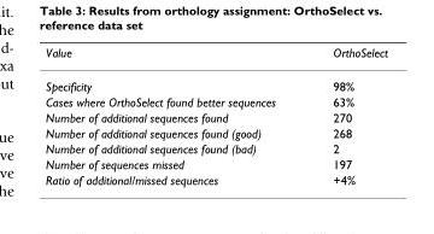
<table><thead><tr><td>Value</td><td>OrthoSelect</td></tr></thead><tbody><tr><td>Specificity</td><td>98%</td></tr><tr><td>Cases where OrthoSelect found better sequences</td><td>63%</td></tr><tr><td>Number of additional sequences found</td><td>270</td></tr><tr><td>Number of additional sequences found (good)</td><td>268</td></tr><tr><td>Number of additional sequences found (bad)</td><td>2</td></tr><tr><td>Number of sequences missed</td><td>197</td></tr><tr><td>Ratio of additional/missed sequences</td><td>+4%</td></tr></tbody></table>